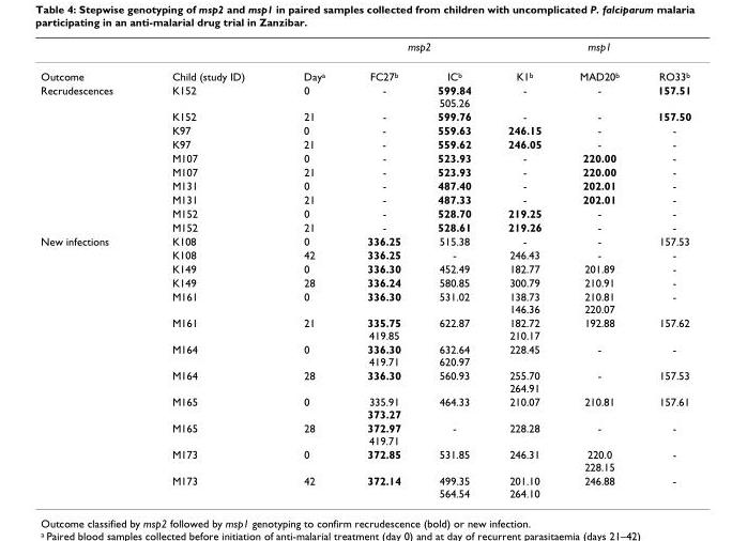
<table><thead><tr><td rowspan="2">Outcome</td><td rowspan="2">Child (study ID)</td><td rowspan="2">Day<sup>a</sup></td><td colspan="2">msp2</td><td colspan="3">msp1</td></tr><tr><td>FC27<sup>b</sup></td><td>IC<sup>b</sup></td><td>K1<sup>b</sup></td><td>MAD20<sup>b</sup></td><td>RO33<sup>b</sup></td></tr></thead><tbody><tr><td rowspan="10">Recrudescences</td><td>K152</td><td>0</td><td>-</td><td>599.84 505.26</td><td>-</td><td>-</td><td>157.51</td></tr><tr><td>K152</td><td>21</td><td>-</td><td>599.76</td><td>-</td><td>-</td><td>157.50</td></tr><tr><td>K97</td><td>0</td><td>-</td><td>559.63</td><td>246.15</td><td>-</td><td>-</td></tr><tr><td>K97</td><td>21</td><td>-</td><td>559.62</td><td>246.05</td><td>-</td><td>-</td></tr><tr><td>M107</td><td>0</td><td>-</td><td>523.93</td><td>-</td><td>220.00</td><td>-</td></tr><tr><td>M107</td><td>21</td><td>-</td><td>523.93</td><td>-</td><td>220.00</td><td>-</td></tr><tr><td>M131</td><td>0</td><td>-</td><td>487.40</td><td>-</td><td>202.01</td><td>-</td></tr><tr><td>M131</td><td>21</td><td>-</td><td>487.33</td><td>-</td><td>202.01</td><td>-</td></tr><tr><td>M152</td><td>0</td><td>-</td><td>528.70</td><td>219.25</td><td>-</td><td>-</td></tr><tr><td>M152</td><td>21</td><td>-</td><td>528.61</td><td>219.26</td><td>-</td><td>-</td></tr><tr><td rowspan="12">New infections</td><td>K108</td><td>0</td><td>336.25</td><td>515.38</td><td>-</td><td>-</td><td>157.53</td></tr><tr><td>K108</td><td>42</td><td>336.25</td><td>-</td><td>246.43</td><td>-</td><td>-</td></tr><tr><td>K149</td><td>0</td><td>336.30</td><td>452.49</td><td>182.77</td><td>201.89</td><td>-</td></tr><tr><td>K149</td><td>28</td><td>336.24</td><td>580.85</td><td>300.79</td><td>210.91</td><td>-</td></tr><tr><td>M161</td><td>0</td><td>336.30</td><td>531.02</td><td>138.73 146.36</td><td>210.81 220.07</td><td>-</td></tr><tr><td>M161</td><td>21</td><td>335.75 419.85</td><td>622.87</td><td>182.72 210.17</td><td>192.88</td><td>157.62</td></tr><tr><td>M164</td><td>0</td><td>336.30 419.71</td><td>632.64 620.97</td><td>228.45</td><td>-</td><td>-</td></tr><tr><td>M164</td><td>28</td><td>336.30</td><td>560.93</td><td>255.70 264.91</td><td>-</td><td>157.53</td></tr><tr><td>M165</td><td>0</td><td>335.91 373.27</td><td>464.33</td><td>210.07</td><td>210.81</td><td>157.61</td></tr><tr><td>M165</td><td>28</td><td>372.97 419.71</td><td>-</td><td>228.28</td><td>-</td><td>-</td></tr><tr><td>M173</td><td>0</td><td>372.85</td><td>531.85</td><td>246.31</td><td>220.0 228.15</td><td>-</td></tr><tr><td>M173</td><td>42</td><td>372.14</td><td>499.35 564.54</td><td>201.10 264.10</td><td>246.88</td><td>-</td></tr></tbody></table>